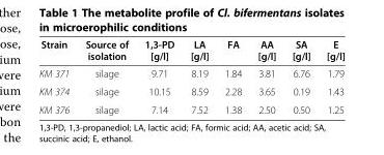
<table><thead><tr><td>Strain</td><td>Source of isolation</td><td>1,3-PD [g/l]</td><td>LA [g/l]</td><td>FA</td><td>AA [g/l]</td><td>SA [g/l]</td><td>E [g/l]</td></tr></thead><tbody><tr><td>KM 371</td><td>silage</td><td>9.71</td><td>8.19</td><td>1.84</td><td>3.81</td><td>6.76</td><td>1.79</td></tr><tr><td>KM 374</td><td>silage</td><td>10.15</td><td>8.59</td><td>2.28</td><td>3.65</td><td>0.19</td><td>1.43</td></tr><tr><td>KM 376</td><td>silage</td><td>7.14</td><td>7.52</td><td>1.38</td><td>2.50</td><td>0.50</td><td>1.25</td></tr></tbody></table>